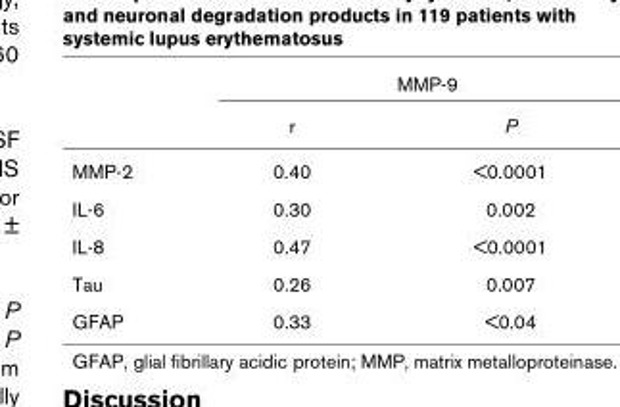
<table><thead><tr><td rowspan="2"></td><td colspan="2">MMP-9</td></tr><tr><td>r</td><td>P</td></tr></thead><tbody><tr><td>MMP-2</td><td>0.40</td><td>&lt;0.0001</td></tr><tr><td>IL-6</td><td>0.30</td><td>0.002</td></tr><tr><td>IL-8</td><td>0.47</td><td>&lt;0.0001</td></tr><tr><td>Tau</td><td>0.26</td><td>0.007</td></tr><tr><td>GFAP</td><td>0.33</td><td>&lt;0.04</td></tr></tbody></table>